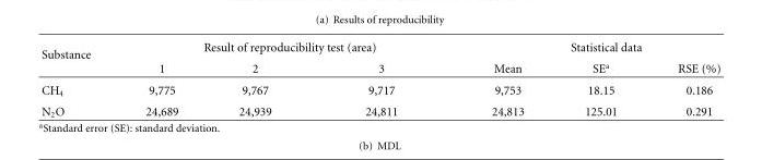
<table><thead><tr><td rowspan="2">Substance</td><td colspan="3">Result of reproducibility test (area)</td><td colspan="3">Statistical data</td></tr><tr><td>1</td><td>2</td><td>3</td><td>Mean</td><td>SE<sup>a</sup></td><td>RSE (%)</td></tr></thead><tbody><tr><td>CH<sub>4</sub></td><td>9,775</td><td>9,767</td><td>9,717</td><td>9,753</td><td>18.15</td><td>0.186</td></tr><tr><td>N<sub>2</sub>O</td><td>24,689</td><td>24,939</td><td>24,811</td><td>24,813</td><td>125.01</td><td>0.291</td></tr></tbody></table>